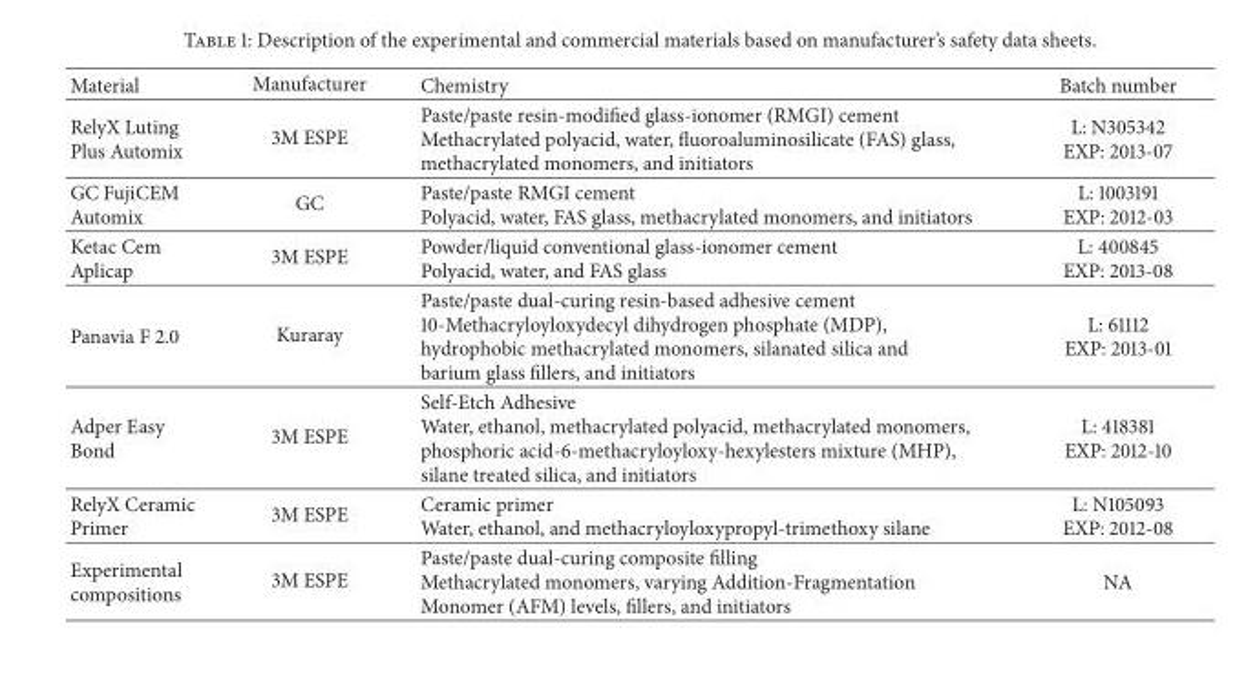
<table><thead><tr><td>Material</td><td>Manufacturer</td><td>Chemistry</td><td>Batch number</td></tr></thead><tbody><tr><td>RelyX Luting Plus Automix</td><td>3M ESPE</td><td>Paste/paste resin-modified glass-ionomer (RMGI) cement Methacrylated polyacid, water, fluoroaluminosilicate (FAS) glass, methacrylated monomers, and initiators</td><td>L: N305342 EXP: 2013-07</td></tr><tr><td>GC FujiCEM Automix</td><td>GC</td><td>Paste/paste RMGI cement Polyacid, water, FAS glass, methacrylated monomers, and initiators</td><td>L: 1003191 EXP: 2012-03</td></tr><tr><td>Ketac Cem Aplicap</td><td>3M ESPE</td><td>Powder/liquid conventional glass-ionomer cement Polyacid, water, and FAS glass</td><td>L: 400845 EXP: 2013-08</td></tr><tr><td>Panavia F 2.0</td><td>Kuraray</td><td>Paste/paste dual-curing resin-based adhesive cement 10-Methacryloyloxydecyl dihydrogen phosphate (MDP), hydrophobic methacrylated monomers, silanated silica and barium glass fillers, and initiators</td><td>L: 61112 EXP: 2013-01</td></tr><tr><td>Adper Easy Bond</td><td>3M ESPE</td><td>Self-Etch Adhesive Water, ethanol, methacrylated polyacid, methacrylated monomers, phosphoric acid-6-methacryloyloxy-hexylesters mixture (MHP), silane treated silica, and initiators</td><td>L: 418381 EXP: 2012-10</td></tr><tr><td>RelyX Ceramic Primer</td><td>3M ESPE</td><td>Ceramic primer Water, ethanol, and methacryloyloxypropyl-trimethoxy silane</td><td>L: N105093 EXP: 2012-08</td></tr><tr><td>Experimental compositions</td><td>3M ESPE</td><td>Paste/paste dual-curing composite filling Methacrylated monomers, varying Addition-Fragmentation Monomer (AFM) levels, fillers, and initiators</td><td>NA</td></tr></tbody></table>